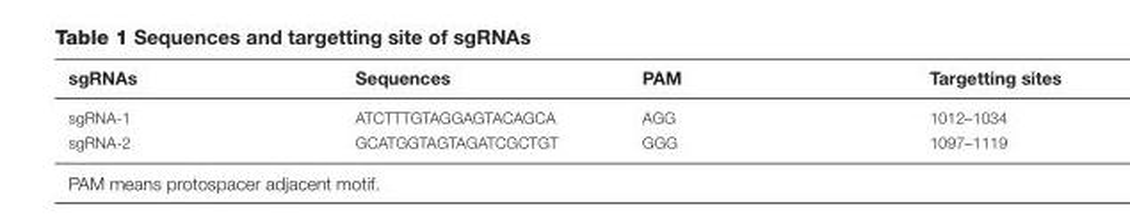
<table><thead><tr><td>sgRNAs</td><td>Sequences</td><td>PAM</td><td>Targetting sites</td></tr></thead><tbody><tr><td>sgRNA-1</td><td>ATCTTTGTAGGAGTACAGCA</td><td>AGG</td><td>1012–1034</td></tr><tr><td>sgRNA-2</td><td>GCATGGTAGTAGATCGCTGT</td><td>GGG</td><td>1097–1119</td></tr></tbody></table>